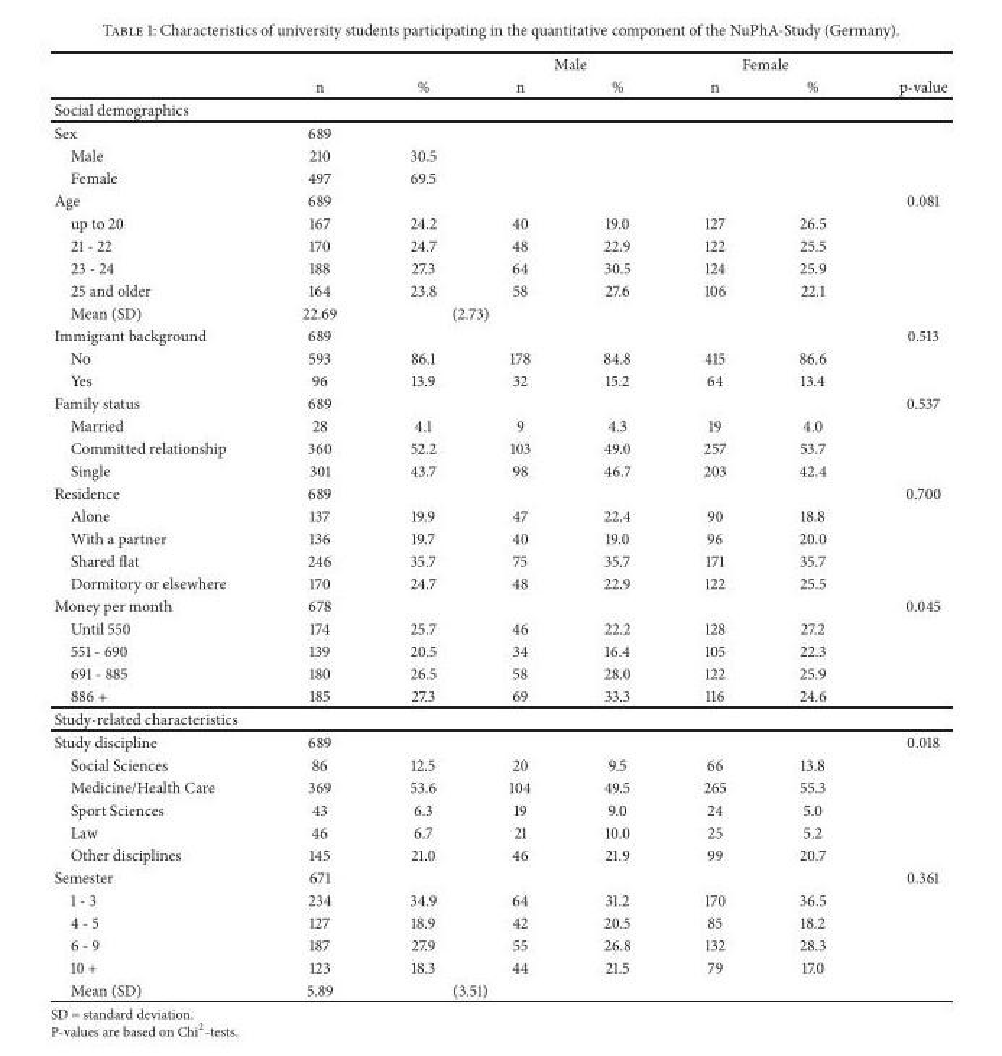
<table><thead><tr><td rowspan="2"></td><td rowspan="2">n</td><td rowspan="2">%</td><td colspan="2">Male</td><td colspan="2">Female</td><td rowspan="2">p-value</td></tr><tr><td>n</td><td>%</td><td>n</td><td>%</td></tr></thead><tbody><tr><td colspan="8">Social demographics</td></tr><tr><td>Sex</td><td>689</td><td></td><td></td><td></td><td></td><td></td><td></td></tr><tr><td>Male</td><td>210</td><td>30.5</td><td></td><td></td><td></td><td></td><td></td></tr><tr><td>Female</td><td>497</td><td>69.5</td><td></td><td></td><td></td><td></td><td></td></tr><tr><td>Age</td><td>689</td><td></td><td></td><td></td><td></td><td></td><td>0.081</td></tr><tr><td>up to 20</td><td>167</td><td>24.2</td><td>40</td><td>19.0</td><td>127</td><td>26.5</td><td></td></tr><tr><td>21 - 22</td><td>170</td><td>24.7</td><td>48</td><td>22.9</td><td>122</td><td>25.5</td><td></td></tr><tr><td>23 - 24</td><td>188</td><td>27.3</td><td>64</td><td>30.5</td><td>124</td><td>25.9</td><td></td></tr><tr><td>25 and older</td><td>164</td><td>23.8</td><td>58</td><td>27.6</td><td>106</td><td>22.1</td><td></td></tr><tr><td>Mean (SD)</td><td>22.69</td><td colspan="2">(2.73)</td><td></td><td></td><td></td><td></td></tr><tr><td>Immigrant background</td><td>689</td><td></td><td></td><td></td><td></td><td></td><td>0.513</td></tr><tr><td>No</td><td>593</td><td>86.1</td><td>178</td><td>84.8</td><td>415</td><td>86.6</td><td></td></tr><tr><td>Yes</td><td>96</td><td>13.9</td><td>32</td><td>15.2</td><td>64</td><td>13.4</td><td></td></tr><tr><td>Family status</td><td>689</td><td></td><td></td><td></td><td></td><td></td><td>0.537</td></tr><tr><td>Married</td><td>28</td><td>4.1</td><td>9</td><td>4.3</td><td>19</td><td>4.0</td><td></td></tr><tr><td>Committed relationship</td><td>360</td><td>52.2</td><td>103</td><td>49.0</td><td>257</td><td>53.7</td><td></td></tr><tr><td>Single</td><td>301</td><td>43.7</td><td>98</td><td>46.7</td><td>203</td><td>42.4</td><td></td></tr><tr><td>Residence</td><td>689</td><td></td><td></td><td></td><td></td><td></td><td>0.700</td></tr><tr><td>Alone</td><td>137</td><td>19.9</td><td>47</td><td>22.4</td><td>90</td><td>18.8</td><td></td></tr><tr><td>With a partner</td><td>136</td><td>19.7</td><td>40</td><td>19.0</td><td>96</td><td>20.0</td><td></td></tr><tr><td>Shared flat</td><td>246</td><td>35.7</td><td>75</td><td>35.7</td><td>171</td><td>35.7</td><td></td></tr><tr><td>Dormitory or elsewhere</td><td>170</td><td>24.7</td><td>48</td><td>22.9</td><td>122</td><td>25.5</td><td></td></tr><tr><td>Money per month</td><td>678</td><td></td><td></td><td></td><td></td><td></td><td>0.045</td></tr><tr><td>Until 550</td><td>174</td><td>25.7</td><td>46</td><td>22.2</td><td>128</td><td>27.2</td><td></td></tr><tr><td>551 - 690</td><td>139</td><td>20.5</td><td>34</td><td>16.4</td><td>105</td><td>22.3</td><td></td></tr><tr><td>691 - 885</td><td>180</td><td>26.5</td><td>58</td><td>28.0</td><td>122</td><td>25.9</td><td></td></tr><tr><td>886 +</td><td>185</td><td>27.3</td><td>69</td><td>33.3</td><td>116</td><td>24.6</td><td></td></tr><tr><td colspan="8">Study-related characteristics</td></tr><tr><td>Study discipline</td><td>689</td><td></td><td></td><td></td><td></td><td></td><td>0.018</td></tr><tr><td>Social Sciences</td><td>86</td><td>12.5</td><td>20</td><td>9.5</td><td>66</td><td>13.8</td><td></td></tr><tr><td>Medicine/Health Care</td><td>369</td><td>53.6</td><td>104</td><td>49.5</td><td>265</td><td>55.3</td><td></td></tr><tr><td>Sport Sciences</td><td>43</td><td>6.3</td><td>19</td><td>9.0</td><td>24</td><td>5.0</td><td></td></tr><tr><td>Law</td><td>46</td><td>6.7</td><td>21</td><td>10.0</td><td>25</td><td>5.2</td><td></td></tr><tr><td>Other disciplines</td><td>145</td><td>21.0</td><td>46</td><td>21.9</td><td>99</td><td>20.7</td><td></td></tr><tr><td>Semester</td><td>671</td><td></td><td></td><td></td><td></td><td></td><td>0.361</td></tr><tr><td>1 - 3</td><td>234</td><td>34.9</td><td>64</td><td>31.2</td><td>170</td><td>36.5</td><td></td></tr><tr><td>4 - 5</td><td>127</td><td>18.9</td><td>42</td><td>20.5</td><td>85</td><td>18.2</td><td></td></tr><tr><td>6 - 9</td><td>187</td><td>27.9</td><td>55</td><td>26.8</td><td>132</td><td>28.3</td><td></td></tr><tr><td>10 +</td><td>123</td><td>18.3</td><td>44</td><td>21.5</td><td>79</td><td>17.0</td><td></td></tr><tr><td>Mean (SD)</td><td>5.89</td><td colspan="2">(3.51)</td><td></td><td></td><td></td><td></td></tr></tbody></table>